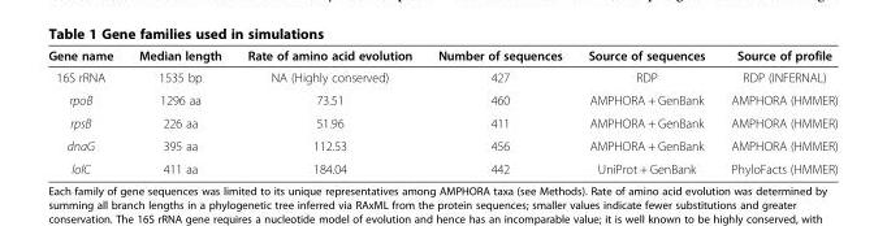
<table><thead><tr><td>Gene name</td><td>Median length</td><td>Rate of amino acid evolution</td><td>Number of sequences</td><td>Source of sequences</td><td>Source of profile</td></tr></thead><tbody><tr><td>16S rRNA</td><td>1535 bp</td><td>NA (Highly conserved)</td><td>427</td><td>RDP</td><td>RDP (INFERNAL)</td></tr><tr><td>rpoB</td><td>1296 aa</td><td>73.51</td><td>460</td><td>AMPHORA + GenBank</td><td>AMPHORA (HMMER)</td></tr><tr><td>rpsB</td><td>226 aa</td><td>51.96</td><td>411</td><td>AMPHORA + GenBank</td><td>AMPHORA (HMMER)</td></tr><tr><td>dnaG</td><td>395 aa</td><td>112.53</td><td>456</td><td>AMPHORA + GenBank</td><td>AMPHORA (HMMER)</td></tr><tr><td>lolC</td><td>411 aa</td><td>184.04</td><td>442</td><td>UniProt + GenBank</td><td>PhyloFacts (HMMER)</td></tr></tbody></table>